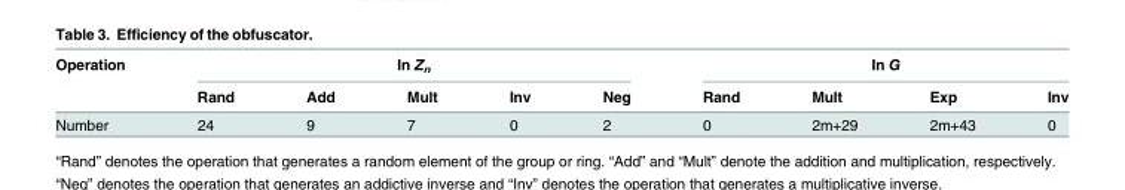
<table><thead><tr><td rowspan="2">Operation</td><td colspan="5">In Z<sub>n</sub></td><td colspan="4">In G</td></tr><tr><td>Rand</td><td>Add</td><td>Mult</td><td>Inv</td><td>Neg</td><td>Rand</td><td>Mult</td><td>Exp</td><td>Inv</td></tr></thead><tbody><tr><td>Number</td><td>24</td><td>9</td><td>7</td><td>0</td><td>2</td><td>0</td><td>2m+29</td><td>2m+43</td><td>0</td></tr></tbody></table>